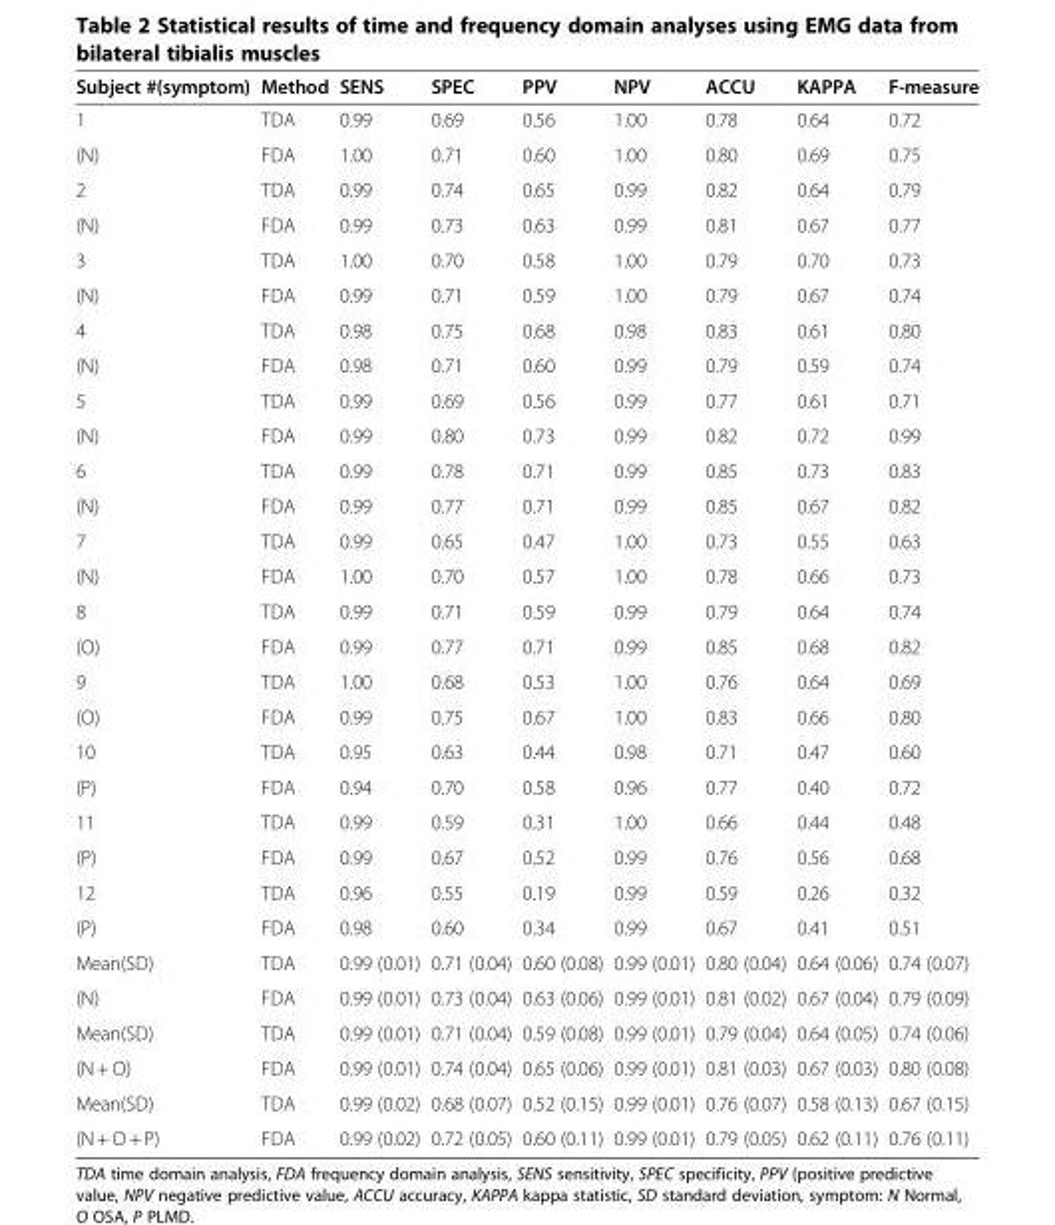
<table><thead><tr><td>Subject #(symptom)</td><td>Method</td><td>SENS</td><td>SPEC</td><td>PPV</td><td>NPV</td><td>ACCU</td><td>KAPPA</td><td>F-measure</td></tr></thead><tbody><tr><td>1</td><td>TDA</td><td>0.99</td><td>0.69</td><td>0.56</td><td>1.00</td><td>0.78</td><td>0.64</td><td>0.72</td></tr><tr><td>(N)</td><td>FDA</td><td>1.00</td><td>0.71</td><td>0.60</td><td>1.00</td><td>0.80</td><td>0.69</td><td>0.75</td></tr><tr><td>2</td><td>TDA</td><td>0.99</td><td>0.74</td><td>0.65</td><td>0.99</td><td>0.82</td><td>0.64</td><td>0.79</td></tr><tr><td>(N)</td><td>FDA</td><td>0.99</td><td>0.73</td><td>0.63</td><td>0.99</td><td>0.81</td><td>0.67</td><td>0.77</td></tr><tr><td>3</td><td>TDA</td><td>1.00</td><td>0.70</td><td>0.58</td><td>1.00</td><td>0.79</td><td>0.70</td><td>0.73</td></tr><tr><td>(N)</td><td>FDA</td><td>0.99</td><td>0.71</td><td>0.59</td><td>1.00</td><td>0.79</td><td>0.67</td><td>0.74</td></tr><tr><td>4</td><td>TDA</td><td>0.98</td><td>0.75</td><td>0.68</td><td>0.98</td><td>0.83</td><td>0.61</td><td>0.80</td></tr><tr><td>(N)</td><td>FDA</td><td>0.98</td><td>0.71</td><td>0.60</td><td>0.99</td><td>0.79</td><td>0.59</td><td>0.74</td></tr><tr><td>5</td><td>TDA</td><td>0.99</td><td>0.69</td><td>0.56</td><td>0.99</td><td>0.77</td><td>0.61</td><td>0.71</td></tr><tr><td>(N)</td><td>FDA</td><td>0.99</td><td>0.80</td><td>0.73</td><td>0.99</td><td>0.82</td><td>0.72</td><td>0.99</td></tr><tr><td>6</td><td>TDA</td><td>0.99</td><td>0.78</td><td>0.71</td><td>0.99</td><td>0.85</td><td>0.73</td><td>0.83</td></tr><tr><td>(N)</td><td>FDA</td><td>0.99</td><td>0.77</td><td>0.71</td><td>0.99</td><td>0.85</td><td>0.67</td><td>0.82</td></tr><tr><td>7</td><td>TDA</td><td>0.99</td><td>0.65</td><td>0.47</td><td>1.00</td><td>0.73</td><td>0.55</td><td>0.63</td></tr><tr><td>(N)</td><td>FDA</td><td>1.00</td><td>0.70</td><td>0.57</td><td>1.00</td><td>0.78</td><td>0.66</td><td>0.73</td></tr><tr><td>8</td><td>TDA</td><td>0.99</td><td>0.71</td><td>0.59</td><td>0.99</td><td>0.79</td><td>0.64</td><td>0.74</td></tr><tr><td>(O)</td><td>FDA</td><td>0.99</td><td>0.77</td><td>0.71</td><td>0.99</td><td>0.85</td><td>0.68</td><td>0.82</td></tr><tr><td>9</td><td>TDA</td><td>1.00</td><td>0.68</td><td>0.53</td><td>1.00</td><td>0.76</td><td>0.64</td><td>0.69</td></tr><tr><td>(O)</td><td>FDA</td><td>0.99</td><td>0.75</td><td>0.67</td><td>1.00</td><td>0.83</td><td>0.66</td><td>0.80</td></tr><tr><td>10</td><td>TDA</td><td>0.95</td><td>0.63</td><td>0.44</td><td>0.98</td><td>0.71</td><td>0.47</td><td>0.60</td></tr><tr><td>(P)</td><td>FDA</td><td>0.94</td><td>0.70</td><td>0.58</td><td>0.96</td><td>0.77</td><td>0.40</td><td>0.72</td></tr><tr><td>11</td><td>TDA</td><td>0.99</td><td>0.59</td><td>0.31</td><td>1.00</td><td>0.66</td><td>0.44</td><td>0.48</td></tr><tr><td>(P)</td><td>FDA</td><td>0.99</td><td>0.67</td><td>0.52</td><td>0.99</td><td>0.76</td><td>0.56</td><td>0.68</td></tr><tr><td>12</td><td>TDA</td><td>0.96</td><td>0.55</td><td>0.19</td><td>0.99</td><td>0.59</td><td>0.26</td><td>0.32</td></tr><tr><td>(P)</td><td>FDA</td><td>0.98</td><td>0.60</td><td>0.34</td><td>0.99</td><td>0.67</td><td>0.41</td><td>0.51</td></tr><tr><td>Mean(SD)</td><td>TDA</td><td>0.99 (0.01)</td><td>0.71 (0.04)</td><td>0.60 (0.08)</td><td>0.99 (0.01)</td><td>0.80 (0.04)</td><td>0.64 (0.06)</td><td>0.74 (0.07)</td></tr><tr><td>(N)</td><td>FDA</td><td>0.99 (0.01)</td><td>0.73 (0.04)</td><td>0.63 (0.06)</td><td>0.99 (0.01)</td><td>0.81 (0.02)</td><td>0.67 (0.04)</td><td>0.79 (0.09)</td></tr><tr><td>Mean(SD)</td><td>TDA</td><td>0.99 (0.01)</td><td>0.71 (0.04)</td><td>0.59 (0.08)</td><td>0.99 (0.01)</td><td>0.79 (0.04)</td><td>0.64 (0.05)</td><td>0.74 (0.06)</td></tr><tr><td>(N + O)</td><td>FDA</td><td>0.99 (0.01)</td><td>0.74 (0.04)</td><td>0.65 (0.06)</td><td>0.99 (0.01)</td><td>0.81 (0.03)</td><td>0.67 (0.03)</td><td>0.80 (0.08)</td></tr><tr><td>Mean(SD)</td><td>TDA</td><td>0.99 (0.02)</td><td>0.68 (0.07)</td><td>0.52 (0.15)</td><td>0.99 (0.01)</td><td>0.76 (0.07)</td><td>0.58 (0.13)</td><td>0.67 (0.15)</td></tr><tr><td>(N + O + P)</td><td>FDA</td><td>0.99 (0.02)</td><td>0.72 (0.05)</td><td>0.60 (0.11)</td><td>0.99 (0.01)</td><td>0.79 (0.05)</td><td>0.62 (0.11)</td><td>0.76 (0.11)</td></tr></tbody></table>